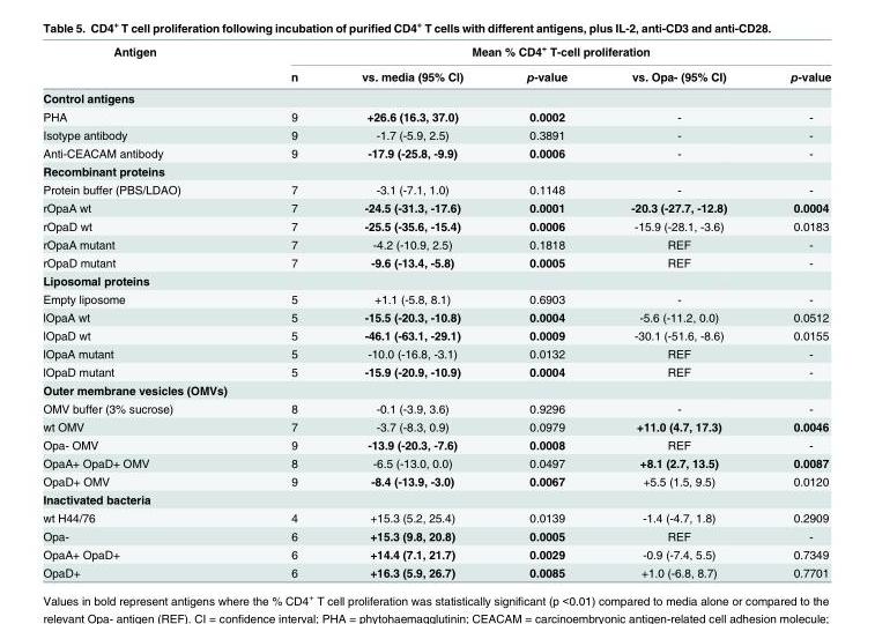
<table><thead><tr><td rowspan="2">Antigen</td><td colspan="5">Mean % CD4<sup>+</sup> T-cell proliferation</td></tr><tr><td>n</td><td>vs. media (95% CI)</td><td>p-value</td><td>vs. Opa- (95% CI)</td><td>p-value</td></tr></thead><tbody><tr><td colspan="6">Control antigens</td></tr><tr><td>PHA</td><td>9</td><td>+26.6 (16.3, 37.0)</td><td>0.0002</td><td>-</td><td>-</td></tr><tr><td>Isotype antibody</td><td>9</td><td>-1.7 (-5.9, 2.5)</td><td>0.3891</td><td>-</td><td>-</td></tr><tr><td>Anti-CEACAM antibody</td><td>9</td><td>-17.9 (-25.8, -9.9)</td><td>0.0006</td><td>-</td><td>-</td></tr><tr><td colspan="6">Recombinant proteins</td></tr><tr><td>Protein buffer (PBS/LDAO)</td><td>7</td><td>-3.1 (-7.1, 1.0)</td><td>0.1148</td><td>-</td><td>-</td></tr><tr><td>rOpaA wt</td><td>7</td><td>-24.5 (-31.3, -17.6)</td><td>0.0001</td><td>-20.3 (-27.7, -12.8)</td><td>0.0004</td></tr><tr><td>rOpaD wt</td><td>7</td><td>-25.5 (-35.6, -15.4)</td><td>0.0006</td><td>-15.9 (-28.1, -3.6)</td><td>0.0183</td></tr><tr><td>rOpaA mutant</td><td>7</td><td>-4.2 (-10.9, 2.5)</td><td>0.1818</td><td>REF</td><td>-</td></tr><tr><td>rOpaD mutant</td><td>7</td><td>-9.6 (-13.4, -5.8)</td><td>0.0005</td><td>REF</td><td>-</td></tr><tr><td colspan="6">Liposomal proteins</td></tr><tr><td>Empty liposome</td><td>5</td><td>+1.1 (-5.8, 8.1)</td><td>0.6903</td><td>-</td><td>-</td></tr><tr><td>lOpaA wt</td><td>5</td><td>-15.5 (-20.3, -10.8)</td><td>0.0004</td><td>-5.6 (-11.2, 0.0)</td><td>0.0512</td></tr><tr><td>lOpaD wt</td><td>5</td><td>-46.1 (-63.1, -29.1)</td><td>0.0009</td><td>-30.1 (-51.6, -8.6)</td><td>0.0155</td></tr><tr><td>lOpaA mutant</td><td>5</td><td>-10.0 (-16.8, -3.1)</td><td>0.0132</td><td>REF</td><td>-</td></tr><tr><td>lOpaD mutant</td><td>5</td><td>-15.9 (-20.9, -10.9)</td><td>0.0004</td><td>REF</td><td>-</td></tr><tr><td colspan="6">Outer membrane vesicles (OMVs)</td></tr><tr><td>OMV buffer (3% sucrose)</td><td>8</td><td>-0.1 (-3.9, 3.6)</td><td>0.9296</td><td>-</td><td>-</td></tr><tr><td>wt OMV</td><td>7</td><td>-3.7 (-8.3, 0.9)</td><td>0.0979</td><td>+11.0 (4.7, 17.3)</td><td>0.0046</td></tr><tr><td>Opa- OMV</td><td>9</td><td>-13.9 (-20.3, -7.6)</td><td>0.0008</td><td>REF</td><td>-</td></tr><tr><td>OpaA+ OpaD+ OMV</td><td>8</td><td>-6.5 (-13.0, 0.0)</td><td>0.0497</td><td>+8.1 (2.7, 13.5)</td><td>0.0087</td></tr><tr><td>OpaD+ OMV</td><td>9</td><td>-8.4 (-13.9, -3.0)</td><td>0.0067</td><td>+5.5 (1.5, 9.5)</td><td>0.0120</td></tr><tr><td colspan="6">Inactivated bacteria</td></tr><tr><td>wt H44/76</td><td>4</td><td>+15.3 (5.2, 25.4)</td><td>0.0139</td><td>-1.4 (-4.7, 1.8)</td><td>0.2909</td></tr><tr><td>Opa-</td><td>6</td><td>+15.3 (9.8, 20.8)</td><td>0.0005</td><td>REF</td><td>-</td></tr><tr><td>OpaA+ OpaD+</td><td>6</td><td>+14.4 (7.1, 21.7)</td><td>0.0029</td><td>-0.9 (-7.4, 5.5)</td><td>0.7349</td></tr><tr><td>OpaD+</td><td>6</td><td>+16.3 (5.9, 26.7)</td><td>0.0085</td><td>+1.0 (-6.8, 8.7)</td><td>0.7701</td></tr></tbody></table>